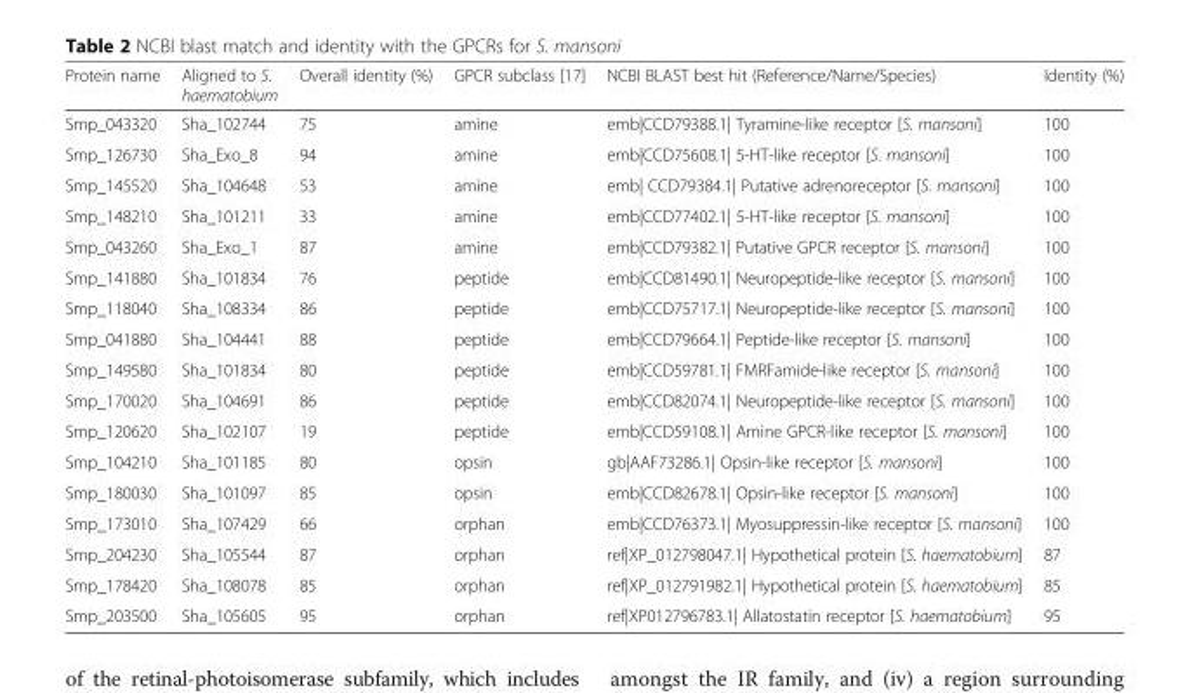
<table><thead><tr><td>Protein name</td><td>Aligned to S. haematobium</td><td>Overall identity (%)</td><td>GPCR subclass [17]</td><td>NCBI BLAST best hit (Reference/Name/Species)</td><td>Identity (%)</td></tr></thead><tbody><tr><td>Smp_043320</td><td>Sha_102744</td><td>75</td><td>amine</td><td>emb|CCD79388.1| Tyramine-like receptor [S. mansoni]</td><td>100</td></tr><tr><td>Smp_126730</td><td>Sha_Exo_8</td><td>94</td><td>amine</td><td>emb|CCD75608.1| 5-HT-like receptor [S. mansoni]</td><td>100</td></tr><tr><td>Smp_145520</td><td>Sha_104648</td><td>53</td><td>amine</td><td>emb| CCD79384.1| Putative adrenoreceptor [S. mansoni]</td><td>100</td></tr><tr><td>Smp_148210</td><td>Sha_101211</td><td>33</td><td>amine</td><td>emb|CCD77402.1| 5-HT-like receptor [S. mansoni]</td><td>100</td></tr><tr><td>Smp_043260</td><td>Sha_Exo_1</td><td>87</td><td>amine</td><td>emb|CCD79382.1| Putative GPCR receptor [S. mansoni]</td><td>100</td></tr><tr><td>Smp_141880</td><td>Sha_101834</td><td>76</td><td>peptide</td><td>emb|CCD81490.1| Neuropeptide-like receptor [S. mansoni]</td><td>100</td></tr><tr><td>Smp_118040</td><td>Sha_108334</td><td>86</td><td>peptide</td><td>emb|CCD75717.1| Neuropeptide-like receptor [S. mansoni]</td><td>100</td></tr><tr><td>Smp_041880</td><td>Sha_104441</td><td>88</td><td>peptide</td><td>emb|CCD79664.1| Peptide-like receptor [S. mansoni]</td><td>100</td></tr><tr><td>Smp_149580</td><td>Sha_101834</td><td>80</td><td>peptide</td><td>emb|CCD59781.1| FMRFamide-like receptor [S. mansoni]</td><td>100</td></tr><tr><td>Smp_170020</td><td>Sha_104691</td><td>86</td><td>peptide</td><td>emb|CCD82074.1| Neuropeptide-like receptor [S. mansoni]</td><td>100</td></tr><tr><td>Smp_120620</td><td>Sha_102107</td><td>19</td><td>peptide</td><td>emb|CCD59108.1| Amine GPCR-like receptor [S. mansoni]</td><td>100</td></tr><tr><td>Smp_104210</td><td>Sha_101185</td><td>80</td><td>opsin</td><td>gb|AAF73286.1| Opsin-like receptor [S. mansoni]</td><td>100</td></tr><tr><td>Smp_180030</td><td>Sha_101097</td><td>85</td><td>opsin</td><td>emb|CCD82678.1| Opsin-like receptor [S. mansoni]</td><td>100</td></tr><tr><td>Smp_173010</td><td>Sha_107429</td><td>66</td><td>orphan</td><td>emb|CCD76373.1| Myosuppressin-like receptor [S. mansoni]</td><td>100</td></tr><tr><td>Smp_204230</td><td>Sha_105544</td><td>87</td><td>orphan</td><td>ref|XP_012798047.1| Hypothetical protein [S. haematobium]</td><td>87</td></tr><tr><td>Smp_178420</td><td>Sha_108078</td><td>85</td><td>orphan</td><td>ref|XP_012791982.1| Hypothetical protein [S. haematobium]</td><td>85</td></tr><tr><td>Smp_203500</td><td>Sha_105605</td><td>95</td><td>orphan</td><td>ref|XP012796783.1| Allatostatin receptor [S. haematobium]</td><td>95</td></tr></tbody></table>